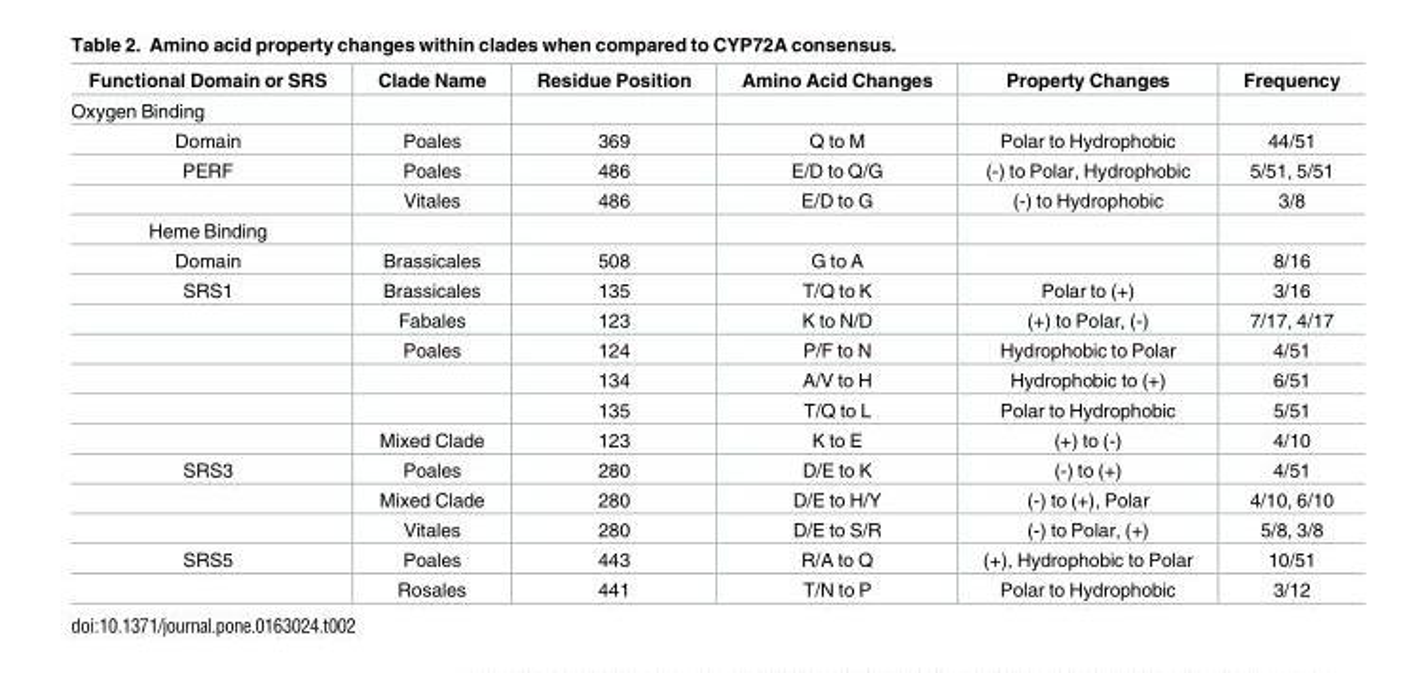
<table><thead><tr><td>Functional Domain or SRS</td><td>Clade Name</td><td>Residue Position</td><td>Amino Acid Changes</td><td>Property Changes</td><td>Frequency</td></tr></thead><tbody><tr><td colspan="6">Oxygen Binding</td></tr><tr><td>Domain</td><td>Poales</td><td>369</td><td>Q to M</td><td>Polar to Hydrophobic</td><td>44/51</td></tr><tr><td rowspan="2">PERF</td><td>Poales</td><td>486</td><td>E/D to Q/G</td><td>(-) to Polar, Hydrophobic</td><td>5/51, 5/51</td></tr><tr><td>Vitales</td><td>486</td><td>E/D to G</td><td>(-) to Hydrophobic</td><td>3/8</td></tr><tr><td colspan="6">Heme Binding</td></tr><tr><td>Domain</td><td>Brassicales</td><td>508</td><td>G to A</td><td></td><td>8/16</td></tr><tr><td rowspan="6">SRS1</td><td>Brassicales</td><td>135</td><td>T/Q to K</td><td>Polar to (+)</td><td>3/16</td></tr><tr><td>Fabales</td><td>123</td><td>K to N/D</td><td>(+) to Polar, (-)</td><td>7/17, 4/17</td></tr><tr><td>Poales</td><td>124</td><td>P/F to N</td><td>Hydrophobic to Polar</td><td>4/51</td></tr><tr><td></td><td>134</td><td>A/V to H</td><td>Hydrophobic to (+)</td><td>6/51</td></tr><tr><td></td><td>135</td><td>T/Q to L</td><td>Polar to Hydrophobic</td><td>5/51</td></tr><tr><td>Mixed Clade</td><td>123</td><td>K to E</td><td>(+) to (-)</td><td>4/10</td></tr><tr><td rowspan="3">SRS3</td><td>Poales</td><td>280</td><td>D/E to K</td><td>(-) to (+)</td><td>4/51</td></tr><tr><td>Mixed Clade</td><td>280</td><td>D/E to H/Y</td><td>(-) to (+), Polar</td><td>4/10, 6/10</td></tr><tr><td>Vitales</td><td>280</td><td>D/E to S/R</td><td>(-) to Polar, (+)</td><td>5/8, 3/8</td></tr><tr><td rowspan="2">SRS5</td><td>Poales</td><td>443</td><td>R/A to Q</td><td>(+), Hydrophobic to Polar</td><td>10/51</td></tr><tr><td>Rosales</td><td>441</td><td>T/N to P</td><td>Polar to Hydrophobic</td><td>3/12</td></tr></tbody></table>